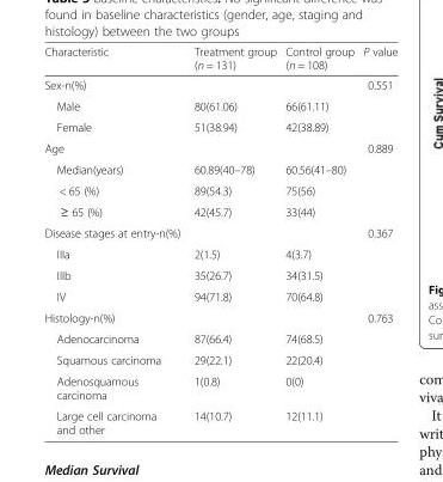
<table><thead><tr><td>Characteristic</td><td>Treatment group (n = 131)</td><td>Control group (n = 108)</td><td>P value</td></tr></thead><tbody><tr><td colspan="3">Sex-n(%)</td><td rowspan="3">0.551</td></tr><tr><td>Male</td><td>80(61.06)</td><td>66(61.11)</td></tr><tr><td>Female</td><td>51(38.94)</td><td>42(38.89)</td></tr><tr><td colspan="3">Age</td><td rowspan="4">0.889</td></tr><tr><td>Median(years)</td><td>60.89(40–78)</td><td>60.56(41–80)</td></tr><tr><td>&lt; 65 (%)</td><td>89(54.3)</td><td>75(56)</td></tr><tr><td>≥ 65 (%)</td><td>42(45.7)</td><td>33(44)</td></tr><tr><td colspan="3">Disease stages at entry-n(%)</td><td rowspan="4">0.367</td></tr><tr><td>IIIa</td><td>2(1.5)</td><td>4(3.7)</td></tr><tr><td>IIIb</td><td>35(26.7)</td><td>34(31.5)</td></tr><tr><td>IV</td><td>94(71.8)</td><td>70(64.8)</td></tr><tr><td colspan="3">Histology-n(%)</td><td rowspan="5">0.763</td></tr><tr><td>Adenocarcinoma</td><td>87(66.4)</td><td>74(68.5)</td></tr><tr><td>Squamous carcinoma</td><td>29(22.1)</td><td>22(20.4)</td></tr><tr><td>Adenosquamous carcinoma</td><td>1(0.8)</td><td>0(0)</td></tr><tr><td>Large cell carcinoma and other</td><td>14(10.7)</td><td>12(11.1)</td></tr></tbody></table>